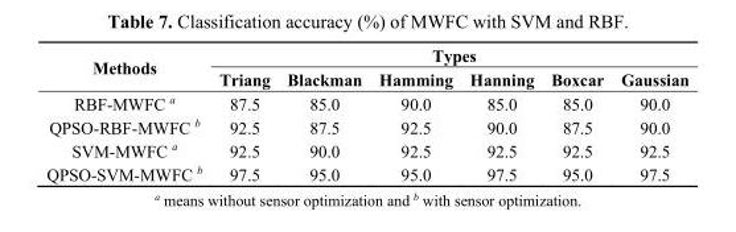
<table><thead><tr><td rowspan="2">Methods</td><td colspan="6">Types</td></tr><tr><td>Triang</td><td>Blackman</td><td>Hamming</td><td>Hanning</td><td>Boxcar</td><td>Gaussian</td></tr></thead><tbody><tr><td>RBF-MWFC <sup>a</sup></td><td>87.5</td><td>85.0</td><td>90.0</td><td>85.0</td><td>85.0</td><td>90.0</td></tr><tr><td>QPSO-RBF-MWFC <sup>b</sup></td><td>92.5</td><td>87.5</td><td>92.5</td><td>90.0</td><td>87.5</td><td>90.0</td></tr><tr><td>SVM-MWFC <sup>a</sup></td><td>92.5</td><td>90.0</td><td>92.5</td><td>92.5</td><td>92.5</td><td>92.5</td></tr><tr><td>QPSO-SVM-MWFC <sup>b</sup></td><td>97.5</td><td>95.0</td><td>95.0</td><td>97.5</td><td>95.0</td><td>97.5</td></tr></tbody></table>